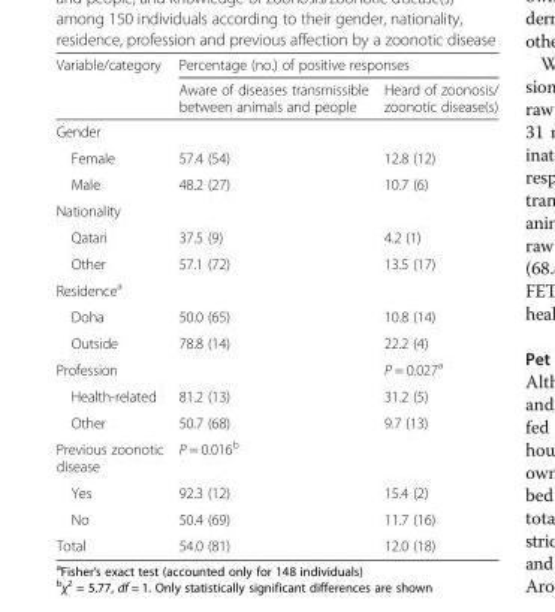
<table><thead><tr><td rowspan="2">Variable/category</td><td colspan="2">Percentage (no.) of positive responses</td></tr><tr><td>Aware of diseases transmissible between animals and people</td><td>Heard of zoonosis/ zoonotic disease(s)</td></tr></thead><tbody><tr><td colspan="3">Gender</td></tr><tr><td>Female</td><td>57.4 (54)</td><td>12.8 (12)</td></tr><tr><td>Male</td><td>48.2 (27)</td><td>10.7 (6)</td></tr><tr><td colspan="3">Nationality</td></tr><tr><td>Qatari</td><td>37.5 (9)</td><td>4.2 (1)</td></tr><tr><td>Other</td><td>57.1 (72)</td><td>13.5 (17)</td></tr><tr><td colspan="3">Residence<sup>a</sup></td></tr><tr><td>Doha</td><td>50.0 (65)</td><td>10.8 (14)</td></tr><tr><td>Outside</td><td>78.8 (14)</td><td>22.2 (4)</td></tr><tr><td>Profession</td><td></td><td>P = 0.027<sup>a</sup></td></tr><tr><td>Health-related</td><td>81.2 (13)</td><td>31.2 (5)</td></tr><tr><td>Other</td><td>50.7 (68)</td><td>9.7 (13)</td></tr><tr><td>Previous zoonotic disease</td><td>P = 0.016<sup>b</sup></td><td></td></tr><tr><td>Yes</td><td>92.3 (12)</td><td>15.4 (2)</td></tr><tr><td>No</td><td>50.4 (69)</td><td>11.7 (16)</td></tr><tr><td>Total</td><td>54.0 (81)</td><td>12.0 (18)</td></tr></tbody></table>